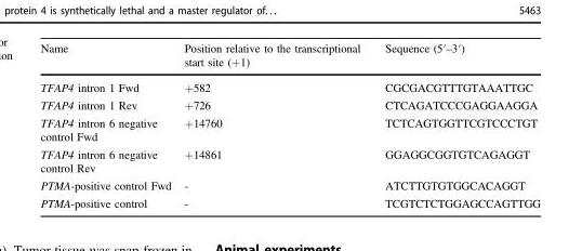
<table><thead><tr><td>Name</td><td>Position relative to the transcriptional start site (+1)</td><td>Sequence (5′–3′)</td></tr></thead><tbody><tr><td>TFAP4 intron 1 Fwd</td><td>+582</td><td>CGCGACGTTTGTAAATTGC</td></tr><tr><td>TFAP4 intron 1 Rev</td><td>+726</td><td>CTCAGATCCCGAGGAAGGA</td></tr><tr><td>TFAP4 intron 6 negative control Fwd</td><td>+14760</td><td>TCTCAGTGGTTCGTCCCTGT</td></tr><tr><td>TFAP4 intron 6 negative control Rev</td><td>+14861</td><td>GGAGGCGGTGTCAGAGGT</td></tr><tr><td>PTMA-positive control Fwd</td><td>-</td><td>ATCTTGTGTGGCACAGGT</td></tr><tr><td>PTMA-positive control</td><td>-</td><td>TCGTCTCTGGAGCCAGTTGG</td></tr></tbody></table>